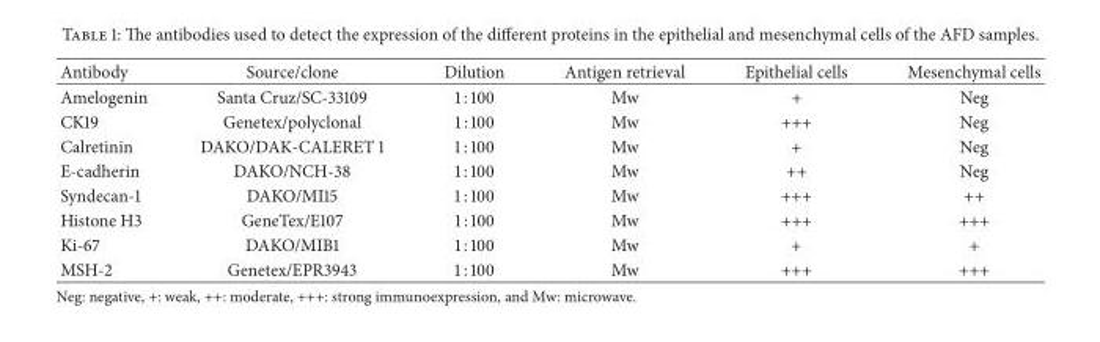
<table><thead><tr><td>Antibody</td><td>Source/clone</td><td>Dilution</td><td>Antigen retrieval</td><td>Epithelial cells</td><td>Mesenchymal cells</td></tr></thead><tbody><tr><td>Amelogenin</td><td>Santa Cruz/SC-33109</td><td>1 : 100</td><td>Mw</td><td>+</td><td>Neg</td></tr><tr><td>CK19</td><td>Genetex/polyclonal</td><td>1 : 100</td><td>Mw</td><td>+++</td><td>Neg</td></tr><tr><td>Calretinin</td><td>DAKO/DAK-CALERET 1</td><td>1 : 100</td><td>Mw</td><td>+</td><td>Neg</td></tr><tr><td>E-cadherin</td><td>DAKO/NCH-38</td><td>1 : 100</td><td>Mw</td><td>++</td><td>Neg</td></tr><tr><td>Syndecan-1</td><td>DAKO/MI15</td><td>1 : 100</td><td>Mw</td><td>+++</td><td>++</td></tr><tr><td>Histone H3</td><td>GeneTex/E107</td><td>1 : 100</td><td>Mw</td><td>+++</td><td>+++</td></tr><tr><td>Ki-67</td><td>DAKO/MIB1</td><td>1 : 100</td><td>Mw</td><td>+</td><td>+</td></tr><tr><td>MSH-2</td><td>Genetex/EPR3943</td><td>1 : 100</td><td>Mw</td><td>+++</td><td>+++</td></tr></tbody></table>